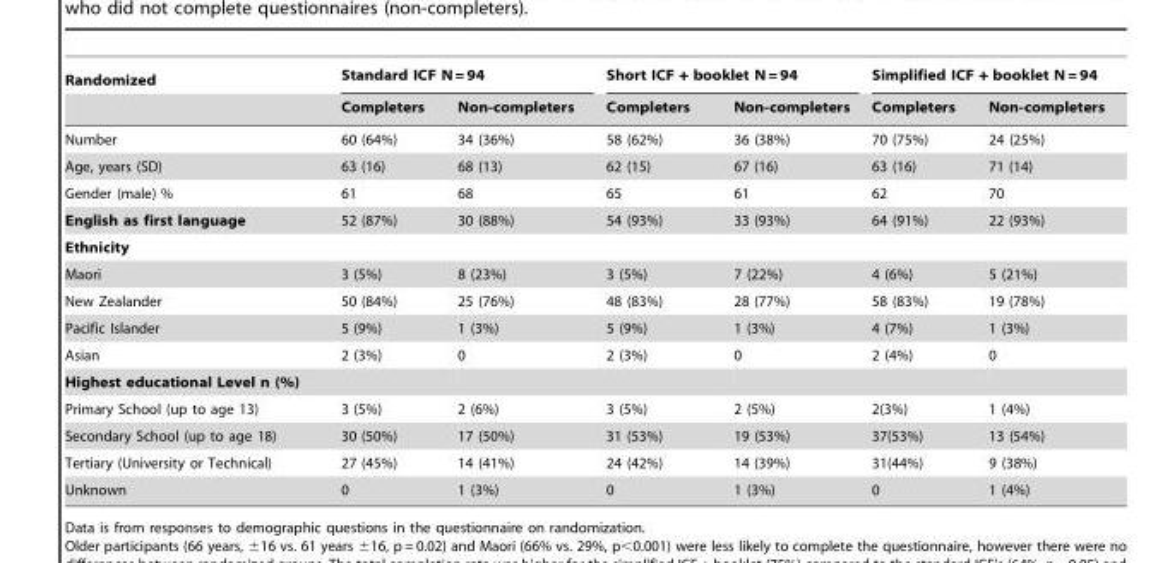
<table><thead><tr><td rowspan="2">Randomized</td><td colspan="2">Standard ICF N = 94</td><td colspan="2">Short ICF + booklet N = 94</td><td colspan="2">Simplified ICF + booklet N = 94</td></tr><tr><td>Completers</td><td>Non-completers</td><td>Completers</td><td>Non-completers</td><td>Completers</td><td>Non-completers</td></tr></thead><tbody><tr><td>Number</td><td>60 (64%)</td><td>34 (36%)</td><td>58 (62%)</td><td>36 (38%)</td><td>70 (75%)</td><td>24 (25%)</td></tr><tr><td>Age, years (SD)</td><td>63 (16)</td><td>68 (13)</td><td>62 (15)</td><td>67 (16)</td><td>63 (16)</td><td>71 (14)</td></tr><tr><td>Gender (male) %</td><td>61</td><td>68</td><td>65</td><td>61</td><td>62</td><td>70</td></tr><tr><td>English as first language</td><td>52 (87%)</td><td>30 (88%)</td><td>54 (93%)</td><td>33 (93%)</td><td>64 (91%)</td><td>22 (93%)</td></tr><tr><td colspan="7">Ethnicity</td></tr><tr><td>Maori</td><td>3 (5%)</td><td>8 (23%)</td><td>3 (5%)</td><td>7 (22%)</td><td>4 (6%)</td><td>5 (21%)</td></tr><tr><td>New Zealander</td><td>50 (84%)</td><td>25 (76%)</td><td>48 (83%)</td><td>28 (77%)</td><td>58 (83%)</td><td>19 (78%)</td></tr><tr><td>Pacific Islander</td><td>5 (9%)</td><td>1 (3%)</td><td>5 (9%)</td><td>1 (3%)</td><td>4 (7%)</td><td>1 (3%)</td></tr><tr><td>Asian</td><td>2 (3%)</td><td>0</td><td>2 (3%)</td><td>0</td><td>2 (4%)</td><td>0</td></tr><tr><td colspan="7">Highest educational Level n (%)</td></tr><tr><td>Primary School (up to age 13)</td><td>3 (5%)</td><td>2 (6%)</td><td>3 (5%)</td><td>2 (5%)</td><td>2(3%)</td><td>1 (4%)</td></tr><tr><td>Secondary School (up to age 18)</td><td>30 (50%)</td><td>17 (50%)</td><td>31 (53%)</td><td>19 (53%)</td><td>37(53%)</td><td>13 (54%)</td></tr><tr><td>Tertiary (University or Technical)</td><td>27 (45%)</td><td>14 (41%)</td><td>24 (42%)</td><td>14 (39%)</td><td>31(44%)</td><td>9 (38%)</td></tr><tr><td>Unknown</td><td>0</td><td>1 (3%)</td><td>0</td><td>1 (3%)</td><td>0</td><td>1 (4%)</td></tr></tbody></table>